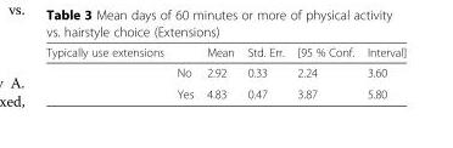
<table><thead><tr><td>Typically use extensions</td><td></td><td>Mean</td><td>Std. Err.</td><td>[95 % Conf.</td><td>Interval]</td></tr></thead><tbody><tr><td></td><td>No</td><td>2.92</td><td>0.33</td><td>2.24</td><td>3.60</td></tr><tr><td></td><td>Yes</td><td>4.83</td><td>0.47</td><td>3.87</td><td>5.80</td></tr></tbody></table>